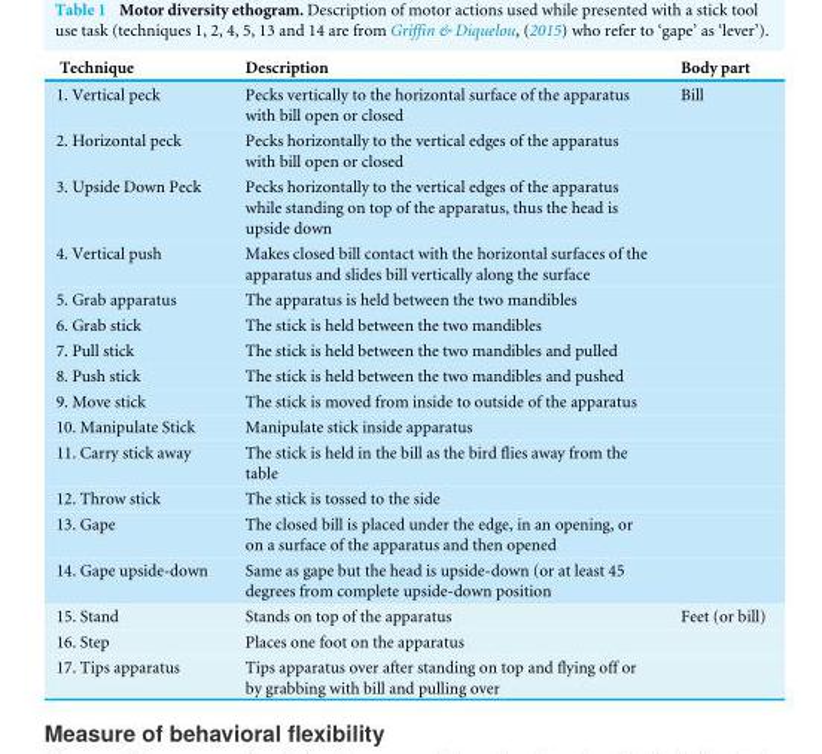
<table><thead><tr><td>Technique</td><td>Description</td><td>Body part</td></tr></thead><tbody><tr><td>1. Vertical peck</td><td>Pecks vertically to the horizontal surface of the apparatus with bill open or closed</td><td>Bill</td></tr><tr><td>2. Horizontal peck</td><td>Pecks horizontally to the vertical edges of the apparatus with bill open or closed</td><td></td></tr><tr><td>3. Upside Down Peck</td><td>Pecks horizontally to the vertical edges of the apparatus while standing on top of the apparatus, thus the head is upside down</td><td></td></tr><tr><td>4. Vertical push</td><td>Makes closed bill contact with the horizontal surfaces of the apparatus and slides bill vertically along the surface</td><td></td></tr><tr><td>5. Grab apparatus</td><td>The apparatus is held between the two mandibles</td><td></td></tr><tr><td>6. Grab stick</td><td>The stick is held between the two mandibles</td><td></td></tr><tr><td>7. Pull stick</td><td>The stick is held between the two mandibles and pulled</td><td></td></tr><tr><td>8. Push stick</td><td>The stick is held between the two mandibles and pushed</td><td></td></tr><tr><td>9. Move stick</td><td>The stick is moved from inside to outside of the apparatus</td><td></td></tr><tr><td>10. Manipulate Stick</td><td>Manipulate stick inside apparatus</td><td></td></tr><tr><td>11. Carry stick away</td><td>The stick is held in the bill as the bird flies away from the table</td><td></td></tr><tr><td>12. Throw stick</td><td>The stick is tossed to the side</td><td></td></tr><tr><td>13. Gape</td><td>The closed bill is placed under the edge, in an opening, or on a surface of the apparatus and then opened</td><td></td></tr><tr><td>14. Gape upside-down</td><td>Same as gape but the head is upside-down (or at least 45 degrees from complete upside-down position</td><td></td></tr><tr><td>15. Stand</td><td>Stands on top of the apparatus</td><td>Feet (or bill)</td></tr><tr><td>16. Step</td><td>Places one foot on the apparatus</td><td></td></tr><tr><td>17. Tips apparatus</td><td>Tips apparatus over after standing on top and flying off or by grabbing with bill and pulling over</td><td></td></tr></tbody></table>